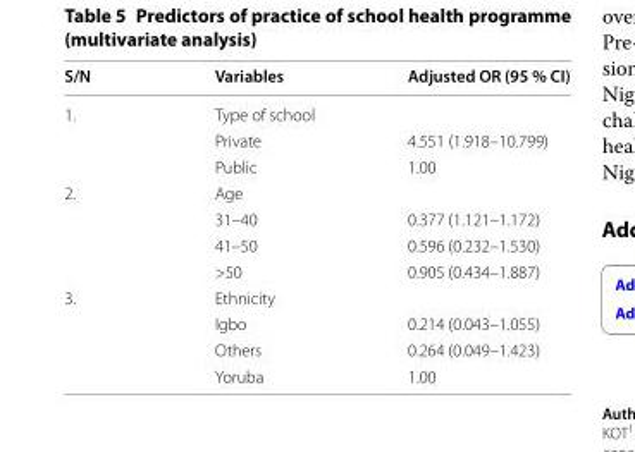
<table><thead><tr><td>S/N</td><td>Variables</td><td>Adjusted OR (95 % CI)</td></tr></thead><tbody><tr><td rowspan="3">1.</td><td colspan="2">Type of school</td></tr><tr><td>Private</td><td>4.551 (1.918–10.799)</td></tr><tr><td>Public</td><td>1.00</td></tr><tr><td rowspan="4">2.</td><td colspan="2">Age</td></tr><tr><td>31–40</td><td>0.377 (1.121–1.172)</td></tr><tr><td>41–50</td><td>0.596 (0.232–1.530)</td></tr><tr><td>&gt;50</td><td>0.905 (0.434–1.887)</td></tr><tr><td rowspan="4">3.</td><td colspan="2">Ethnicity</td></tr><tr><td>Igbo</td><td>0.214 (0.043–1.055)</td></tr><tr><td>Others</td><td>0.264 (0.049–1.423)</td></tr><tr><td>Yoruba</td><td>1.00</td></tr></tbody></table>